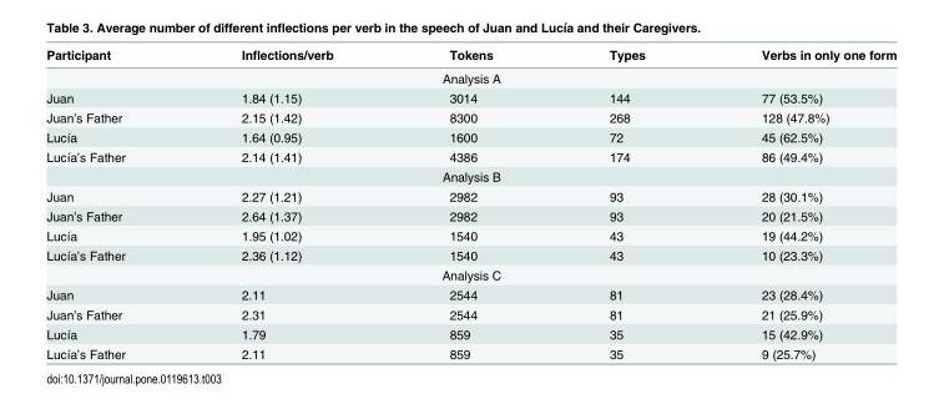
<table><thead><tr><td>Participant</td><td>Inflections/verb</td><td>Tokens</td><td>Types</td><td>Verbs in only one form</td></tr></thead><tbody><tr><td colspan="5">Analysis A</td></tr><tr><td>Juan</td><td>1.84 (1.15)</td><td>3014</td><td>144</td><td>77 (53.5%)</td></tr><tr><td>Juan’s Father</td><td>2.15 (1.42)</td><td>8300</td><td>268</td><td>128 (47.8%)</td></tr><tr><td>Lucía</td><td>1.64 (0.95)</td><td>1600</td><td>72</td><td>45 (62.5%)</td></tr><tr><td>Lucía’s Father</td><td>2.14 (1.41)</td><td>4386</td><td>174</td><td>86 (49.4%)</td></tr><tr><td colspan="5">Analysis B</td></tr><tr><td>Juan</td><td>2.27 (1.21)</td><td>2982</td><td>93</td><td>28 (30.1%)</td></tr><tr><td>Juan’s Father</td><td>2.64 (1.37)</td><td>2982</td><td>93</td><td>20 (21.5%)</td></tr><tr><td>Lucía</td><td>1.95 (1.02)</td><td>1540</td><td>43</td><td>19 (44.2%)</td></tr><tr><td>Lucía’s Father</td><td>2.36 (1.12)</td><td>1540</td><td>43</td><td>10 (23.3%)</td></tr><tr><td colspan="5">Analysis C</td></tr><tr><td>Juan</td><td>2.11</td><td>2544</td><td>81</td><td>23 (28.4%)</td></tr><tr><td>Juan’s Father</td><td>2.31</td><td>2544</td><td>81</td><td>21 (25.9%)</td></tr><tr><td>Lucía</td><td>1.79</td><td>859</td><td>35</td><td>15 (42.9%)</td></tr><tr><td>Lucía’s Father</td><td>2.11</td><td>859</td><td>35</td><td>9 (25.7%)</td></tr></tbody></table>